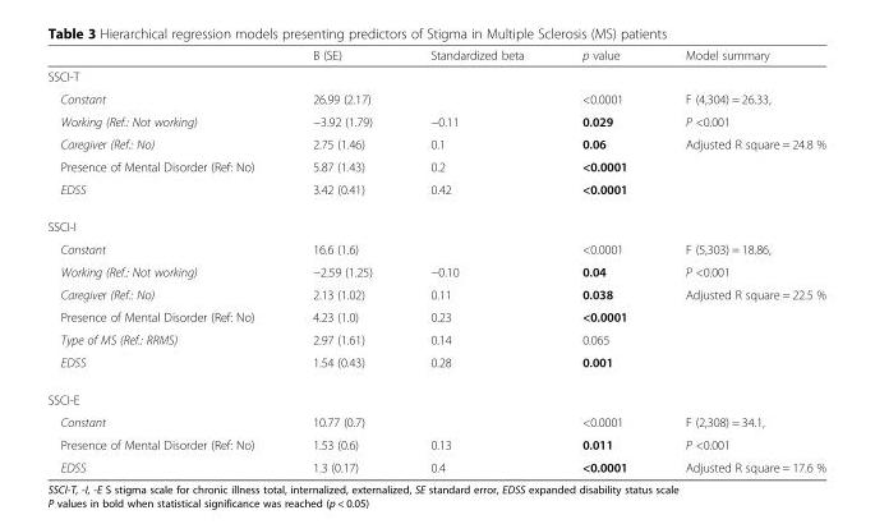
<table><thead><tr><td></td><td>B (SE)</td><td>Standardized beta</td><td>p value</td><td>Model summary</td></tr></thead><tbody><tr><td colspan="5">SSCI-T</td></tr><tr><td>Constant</td><td>26.99 (2.17)</td><td></td><td>&lt;0.0001</td><td>F (4,304) = 26.33,</td></tr><tr><td>Working (Ref.: Not working)</td><td>−3.92 (1.79)</td><td>−0.11</td><td>0.029</td><td>P &lt;0.001</td></tr><tr><td>Caregiver (Ref.: No)</td><td>2.75 (1.46)</td><td>0.1</td><td>0.06</td><td rowspan="3">Adjusted R square = 24.8 %</td></tr><tr><td>Presence of Mental Disorder (Ref: No)</td><td>5.87 (1.43)</td><td>0.2</td><td>&lt;0.0001</td></tr><tr><td>EDSS</td><td>3.42 (0.41)</td><td>0.42</td><td>&lt;0.0001</td></tr><tr><td colspan="5">SSCI-I</td></tr><tr><td>Constant</td><td>16.6 (1.6)</td><td></td><td>&lt;0.0001</td><td>F (5,303) = 18.86,</td></tr><tr><td>Working (Ref.: Not working)</td><td>−2.59 (1.25)</td><td>−0.10</td><td>0.04</td><td>P &lt;0.001</td></tr><tr><td>Caregiver (Ref.: No)</td><td>2.13 (1.02)</td><td>0.11</td><td>0.038</td><td rowspan="4">Adjusted R square = 22.5 %</td></tr><tr><td>Presence of Mental Disorder (Ref: No)</td><td>4.23 (1.0)</td><td>0.23</td><td>&lt;0.0001</td></tr><tr><td>Type of MS (Ref.: RRMS)</td><td>2.97 (1.61)</td><td>0.14</td><td>0.065</td></tr><tr><td>EDSS</td><td>1.54 (0.43)</td><td>0.28</td><td>0.001</td></tr><tr><td colspan="5">SSCI-E</td></tr><tr><td>Constant</td><td>10.77 (0.7)</td><td></td><td>&lt;0.0001</td><td>F (2,308) = 34.1,</td></tr><tr><td>Presence of Mental Disorder (Ref: No)</td><td>1.53 (0.6)</td><td>0.13</td><td>0.011</td><td>P &lt;0.001</td></tr><tr><td>EDSS</td><td>1.3 (0.17)</td><td>0.4</td><td>&lt;0.0001</td><td>Adjusted R square = 17.6 %</td></tr></tbody></table>